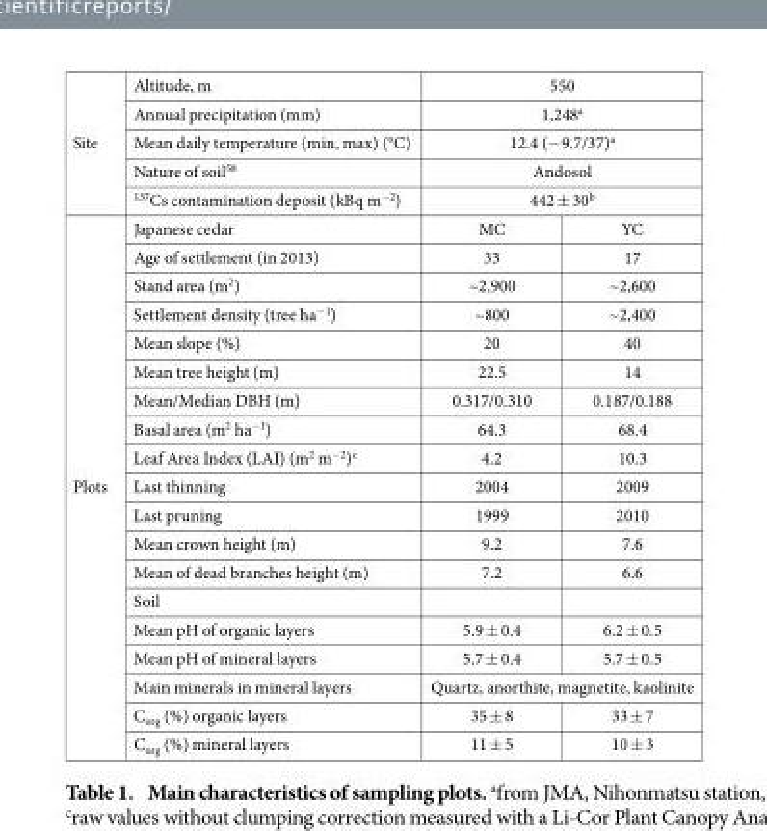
<table><tbody><tr><td rowspan="5">Site</td><td>Altitude, m</td><td colspan="2">550</td></tr><tr><td>Annual precipitation (mm)</td><td colspan="2">1,248<sup>a</sup></td></tr><tr><td>Mean daily temperature (min, max) (°C)</td><td colspan="2">12.4 (− 9.7/37)<sup>a</sup></td></tr><tr><td>Nature of soil<sup>58</sup></td><td colspan="2">Andosol</td></tr><tr><td><sup>137</sup>Cs contamination deposit (kBq m<sup>−2</sup>)</td><td colspan="2">442 ± 30<sup>b</sup></td></tr><tr><td rowspan="19">Plots</td><td>Japanese cedar</td><td>MC</td><td>YC</td></tr><tr><td>Age of settlement (in 2013)</td><td>33</td><td>17</td></tr><tr><td>Stand area (m<sup>2</sup>)</td><td>~2,900</td><td>~2,600</td></tr><tr><td>Settlement density (tree ha<sup>−1</sup>)</td><td>~800</td><td>~2,400</td></tr><tr><td>Mean slope (%)</td><td>20</td><td>40</td></tr><tr><td>Mean tree height (m)</td><td>22.5</td><td>14</td></tr><tr><td>Mean/Median DBH (m)</td><td>0.317/0.310</td><td>0.187/0.188</td></tr><tr><td>Basal area (m<sup>2</sup> ha<sup>−1</sup>)</td><td>64.3</td><td>68.4</td></tr><tr><td>Leaf Area Index (LAI) (m<sup>2</sup> m<sup>−2</sup>)<sup>c</sup></td><td>4.2</td><td>10.3</td></tr><tr><td>Last thinning</td><td>2004</td><td>2009</td></tr><tr><td>Last pruning</td><td>1999</td><td>2010</td></tr><tr><td>Mean crown height (m)</td><td>9.2</td><td>7.6</td></tr><tr><td>Mean of dead branches height (m)</td><td>7.2</td><td>6.6</td></tr><tr><td>Soil</td><td></td><td></td></tr><tr><td>Mean pH of organic layers</td><td>5.9 ± 0.4</td><td>6.2 ± 0.5</td></tr><tr><td>Mean pH of mineral layers</td><td>5.7 ± 0.4</td><td>5.7 ± 0.5</td></tr><tr><td>Main minerals in mineral layers</td><td colspan="2">Quartz, anorthite, magnetite, kaolinite</td></tr><tr><td>C<sub>org</sub> (%) organic layers</td><td>35 ± 8</td><td>33 ± 7</td></tr><tr><td>C<sub>org</sub> (%) mineral layers</td><td>11 ± 5</td><td>10 ± 3</td></tr></tbody></table>